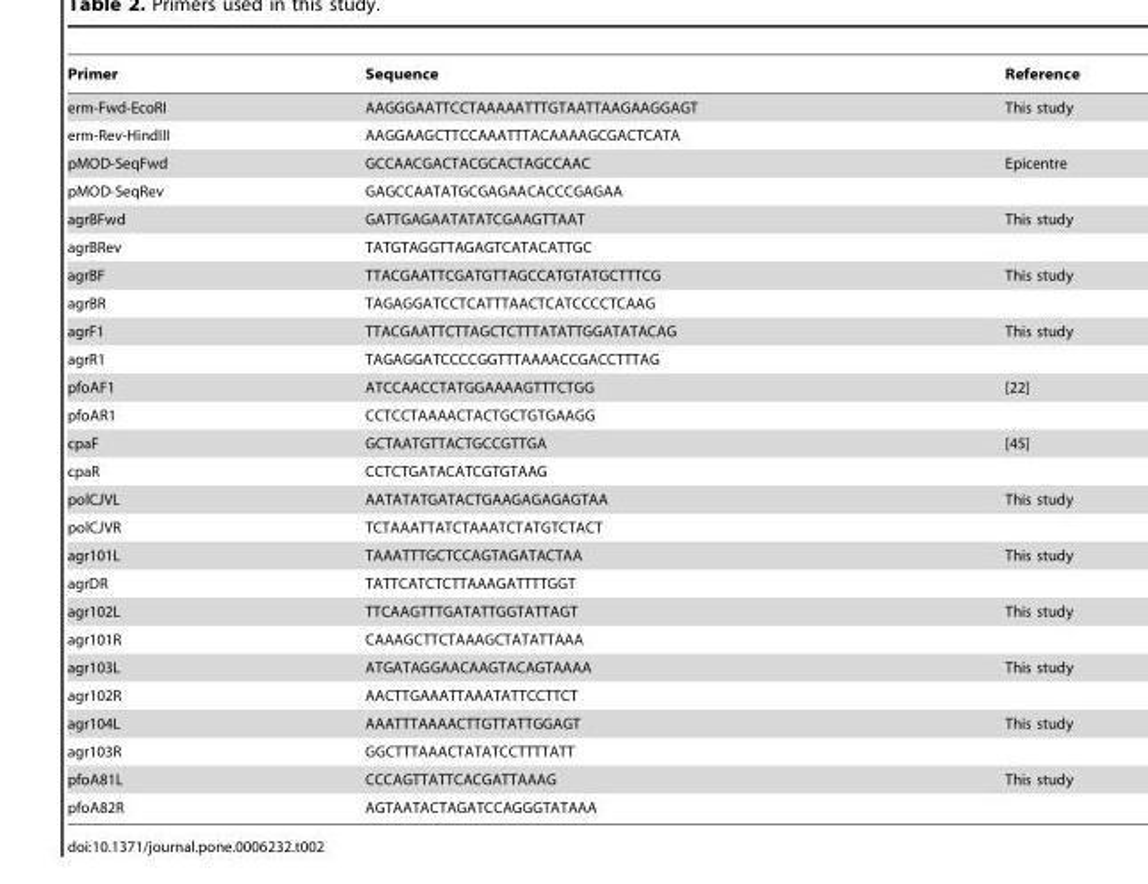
<table><thead><tr><td>Primer</td><td>Sequence</td><td>Reference</td></tr></thead><tbody><tr><td>erm-Fwd-EcoRI</td><td>AAGGGAATTCCTAAAAATTTGTAATTAAGAAGGAGT</td><td>This study</td></tr><tr><td>erm-Rev-HindIII</td><td>AAGGAAGCTTCCAAATTTACAAAAGCGACTCATA</td><td></td></tr><tr><td>pMOD-SeqFwd</td><td>GCCAACGACTACGCACTAGCCAAC</td><td>Epicentre</td></tr><tr><td>pMOD-SeqRev</td><td>GAGCCAATATGCGAGAACACCCGAGAA</td><td></td></tr><tr><td>agrBFwd</td><td>GATTGAGAATATATCGAAGTTAAT</td><td>This study</td></tr><tr><td>agrBRev</td><td>TATGTAGGTTAGAGTCATACATTGC</td><td></td></tr><tr><td>agrBF</td><td>TTACGAATTCGATGTTAGCCATGTATGCTTTCG</td><td>This study</td></tr><tr><td>agrBR</td><td>TAGAGGATCCTCATTTAACTCATCCCCTCAAG</td><td></td></tr><tr><td>agrF1</td><td>TTACGAATTCTTAGCTCTTTATATTGGATATACAG</td><td>This study</td></tr><tr><td>agrR1</td><td>TAGAGGATCCCCGGTTTAAAACCGACCTTTAG</td><td></td></tr><tr><td>pfoAF1</td><td>ATCCAACCTATGGAAAAGTTTCTGG</td><td>[22]</td></tr><tr><td>pfoAR1</td><td>CCTCCTAAAACTACTGCTGTGAAGG</td><td></td></tr><tr><td>cpaF</td><td>GCTAATGTTACTGCCGTTGA</td><td>[45]</td></tr><tr><td>cpaR</td><td>CCTCTGATACATCGTGTAAG</td><td></td></tr><tr><td>polCJVL</td><td>AATATATGATACTGAAGAGAGAGTAA</td><td>This study</td></tr><tr><td>polCJVR</td><td>TCTAAATTATCTAAATCTATGTCTACT</td><td></td></tr><tr><td>agr101L</td><td>TAAATTTGCTCCAGTAGATACTAA</td><td>This study</td></tr><tr><td>agrDR</td><td>TATTCATCTCTTAAAGATTTTGGT</td><td></td></tr><tr><td>agr102L</td><td>TTCAAGTTTGATATTGGTATTAGT</td><td>This study</td></tr><tr><td>agr101R</td><td>CAAAGCTTCTAAAGCTATATTAAA</td><td></td></tr><tr><td>agr103L</td><td>ATGATAGGAACAAGTACAGTAAAA</td><td>This study</td></tr><tr><td>agr102R</td><td>AACTTGAAATTAAATATTCCTTCT</td><td></td></tr><tr><td>agr104L</td><td>AAATTTAAAACTTGTTATTGGAGT</td><td>This study</td></tr><tr><td>agr103R</td><td>GGCTTTAAACTATATCCTTTTATT</td><td></td></tr><tr><td>pfoA81L</td><td>CCCAGTTATTCACGATTAAAG</td><td>This study</td></tr><tr><td>pfoA82R</td><td>AGTAATACTAGATCCAGGGTATAAA</td><td></td></tr></tbody></table>